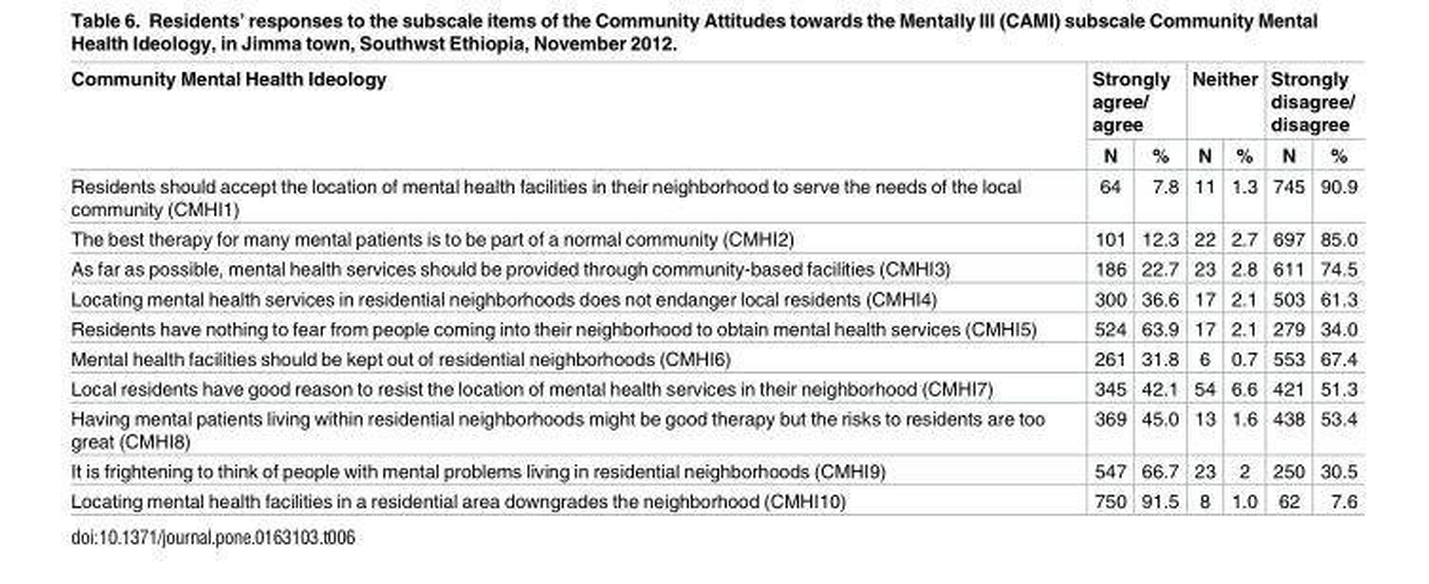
<table><thead><tr><td rowspan="2">Community Mental Health Ideology</td><td colspan="2">Strongly agree/ agree</td><td colspan="2">Neither</td><td colspan="2">Strongly disagree/ disagree</td></tr><tr><td>N</td><td>%</td><td>N</td><td>%</td><td>N</td><td>%</td></tr></thead><tbody><tr><td>Residents should accept the location of mental health facilities in their neighborhood to serve the needs of the local community (CMHI1)</td><td>64</td><td>7.8</td><td>11</td><td>1.3</td><td>745</td><td>90.9</td></tr><tr><td>The best therapy for many mental patients is to be part of a normal community (CMHI2)</td><td>101</td><td>12.3</td><td>22</td><td>2.7</td><td>697</td><td>85.0</td></tr><tr><td>As far as possible, mental health services should be provided through community-based facilities (CMHI3)</td><td>186</td><td>22.7</td><td>23</td><td>2.8</td><td>611</td><td>74.5</td></tr><tr><td>Locating mental health services in residential neighborhoods does not endanger local residents (CMHI4)</td><td>300</td><td>36.6</td><td>17</td><td>2.1</td><td>503</td><td>61.3</td></tr><tr><td>Residents have nothing to fear from people coming into their neighborhood to obtain mental health services (CMHI5)</td><td>524</td><td>63.9</td><td>17</td><td>2.1</td><td>279</td><td>34.0</td></tr><tr><td>Mental health facilities should be kept out of residential neighborhoods (CMHI6)</td><td>261</td><td>31.8</td><td>6</td><td>0.7</td><td>553</td><td>67.4</td></tr><tr><td>Local residents have good reason to resist the location of mental health services in their neighborhood (CMHI7)</td><td>345</td><td>42.1</td><td>54</td><td>6.6</td><td>421</td><td>51.3</td></tr><tr><td>Having mental patients living within residential neighborhoods might be good therapy but the risks to residents are too great (CMHI8)</td><td>369</td><td>45.0</td><td>13</td><td>1.6</td><td>438</td><td>53.4</td></tr><tr><td>It is frightening to think of people with mental problems living in residential neighborhoods (CMHI9)</td><td>547</td><td>66.7</td><td>23</td><td>2</td><td>250</td><td>30.5</td></tr><tr><td>Locating mental health facilities in a residential area downgrades the neighborhood (CMHI10)</td><td>750</td><td>91.5</td><td>8</td><td>1.0</td><td>62</td><td>7.6</td></tr></tbody></table>